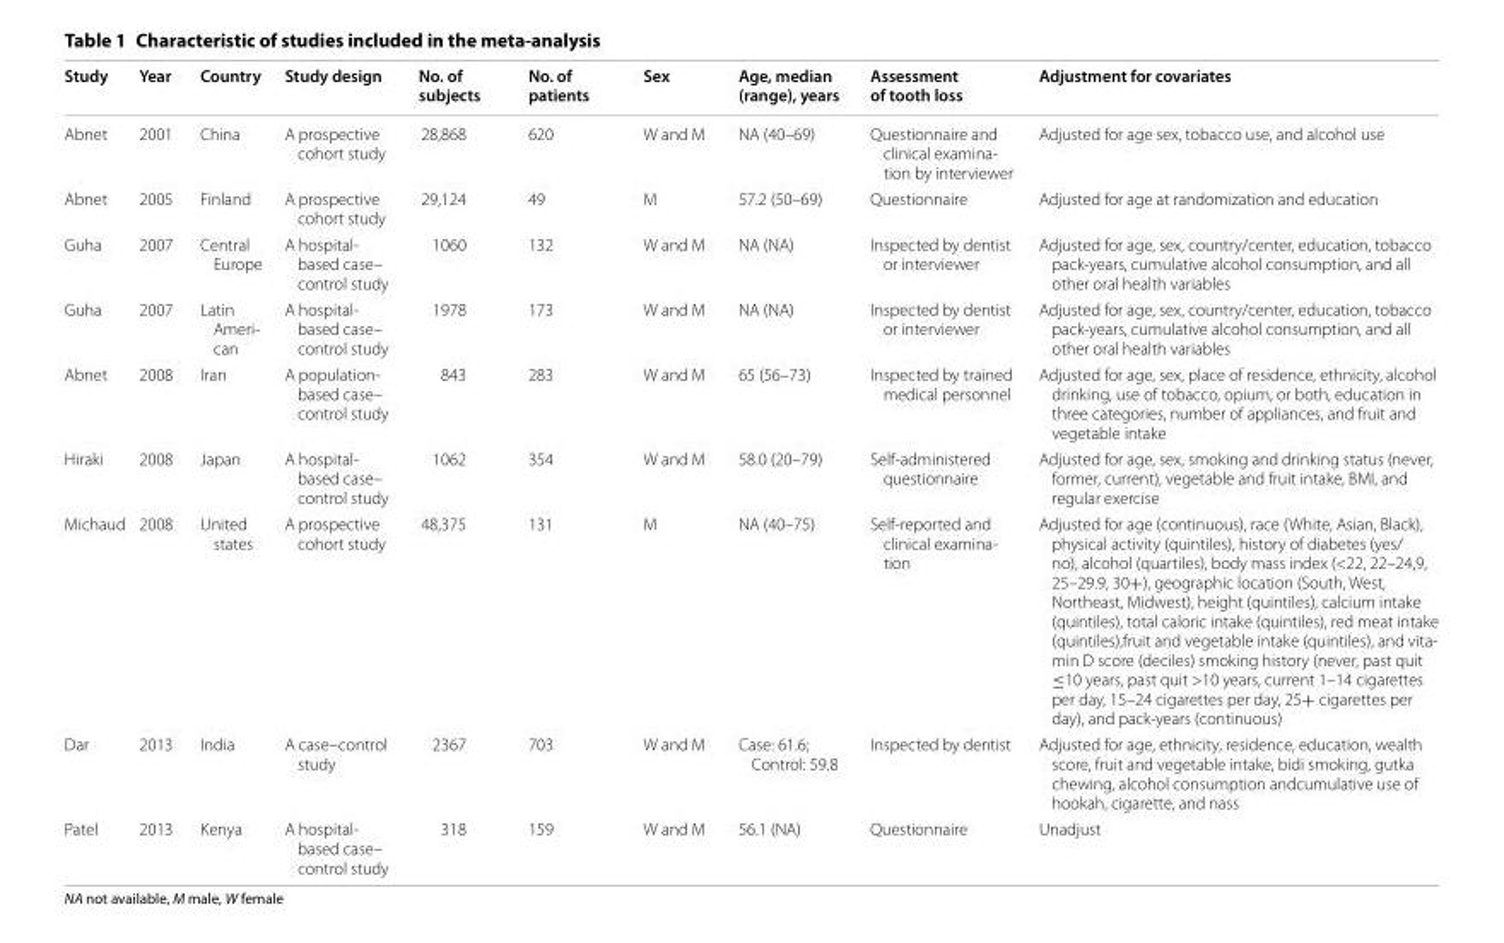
<table><thead><tr><td>Study</td><td>Year</td><td>Country</td><td>Study design</td><td>No. of subjects</td><td>No. of patients</td><td>Sex</td><td>Age, median (range), years</td><td>Assessment of tooth loss</td><td>Adjustment for covariates</td></tr></thead><tbody><tr><td>Abnet</td><td>2001</td><td>China</td><td>A prospective cohort study</td><td>28,868</td><td>620</td><td>W and M</td><td>NA (40–69)</td><td>Questionnaire and clinical examina- tion by interviewer</td><td>Adjusted for age sex, tobacco use, and alcohol use</td></tr><tr><td>Abnet</td><td>2005</td><td>Finland</td><td>A prospective cohort study</td><td>29,124</td><td>49</td><td>M</td><td>57.2 (50–69)</td><td>Questionnaire</td><td>Adjusted for age at randomization and education</td></tr><tr><td>Guha</td><td>2007</td><td>Central Europe</td><td>A hospital- based case– control study</td><td>1060</td><td>132</td><td>W and M</td><td>NA (NA)</td><td>Inspected by dentist or interviewer</td><td>Adjusted for age, sex, country/center, education, tobacco pack-years, cumulative alcohol consumption, and all other oral health variables</td></tr><tr><td>Guha</td><td>2007</td><td>Latin Ameri- can</td><td>A hospital- based case– control study</td><td>1978</td><td>173</td><td>W and M</td><td>NA (NA)</td><td>Inspected by dentist or interviewer</td><td>Adjusted for age, sex, country/center, education, tobacco pack-years, cumulative alcohol consumption, and all other oral health variables</td></tr><tr><td>Abnet</td><td>2008</td><td>Iran</td><td>A population- based case– control study</td><td>843</td><td>283</td><td>W and M</td><td>65 (56–73)</td><td>Inspected by trained medical personnel</td><td>Adjusted for age, sex, place of residence, ethnicity, alcohol drinking, use of tobacco, opium, or both, education in three categories, number of appliances, and fruit and vegetable intake</td></tr><tr><td>Hiraki</td><td>2008</td><td>Japan</td><td>A hospital- based case– control study</td><td>1062</td><td>354</td><td>W and M</td><td>58.0 (20–79)</td><td>Self-administered questionnaire</td><td>Adjusted for age, sex, smoking and drinking status (never, former, current), vegetable and fruit intake, BMI, and regular exercise</td></tr><tr><td>Michaud</td><td>2008</td><td>United states</td><td>A prospective cohort study</td><td>48,375</td><td>131</td><td>M</td><td>NA (40–75)</td><td>Self-reported and clinical examina- tion</td><td>Adjusted for age (continuous), race (White, Asian, Black), physical activity (quintiles), history of diabetes (yes/ no), alcohol (quartiles), body mass index (&lt;22, 22–24,9, 25–29.9, 30+), geographic location (South, West, Northeast, Midwest), height (quintiles), calcium intake (quintiles), total caloric intake (quintiles), red meat intake (quintiles),fruit and vegetable intake (quintiles), and vita- min D score (deciles) smoking history (never, past quit ≤10 years, past quit &gt;10 years, current 1–14 cigarettes per day, 15–24 cigarettes per day, 25+ cigarettes per day), and pack-years (continuous)</td></tr><tr><td>Dar</td><td>2013</td><td>India</td><td>A case–control study</td><td>2367</td><td>703</td><td>W and M</td><td>Case: 61.6; Control: 59.8</td><td>Inspected by dentist</td><td>Adjusted for age, ethnicity, residence, education, wealth score, fruit and vegetable intake, bidi smoking, gutka chewing, alcohol consumption andcumulative use of hookah, cigarette, and nass</td></tr><tr><td>Patel</td><td>2013</td><td>Kenya</td><td>A hospital- based case– control study</td><td>318</td><td>159</td><td>W and M</td><td>56.1 (NA)</td><td>Questionnaire</td><td>Unadjust</td></tr></tbody></table>